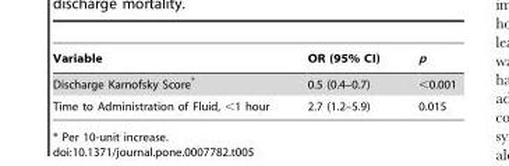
<table><thead><tr><td>Variable</td><td>OR (95% CI)</td><td>p</td></tr></thead><tbody><tr><td>Discharge Karnofsky Score*</td><td>0.5 (0.4–0.7)</td><td>&lt;0.001</td></tr><tr><td>Time to Administration of Fluid, &lt;1 hour</td><td>2.7 (1.2–5.9)</td><td>0.015</td></tr></tbody></table>